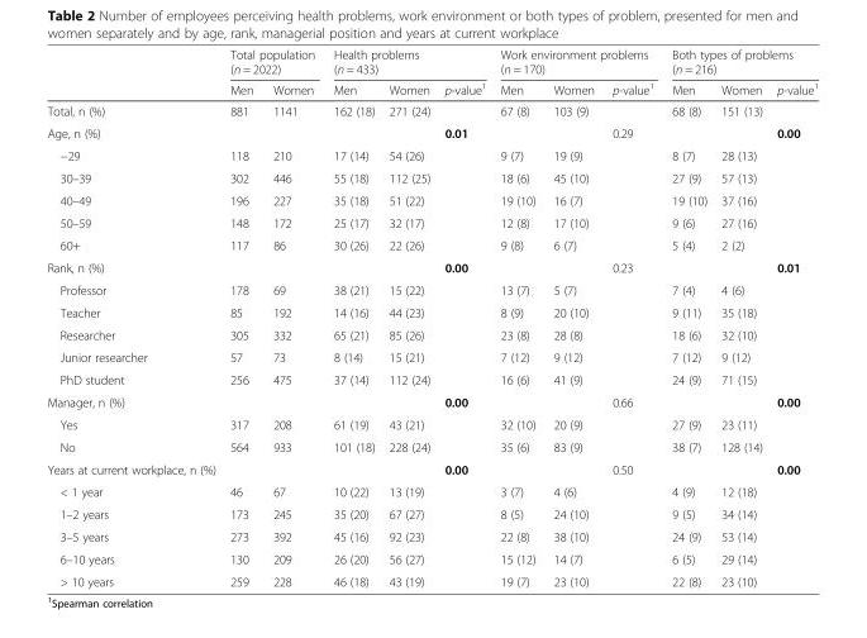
<table><thead><tr><td rowspan="2"></td><td colspan="2">Total population (n = 2022)</td><td colspan="3">Health problems (n = 433)</td><td colspan="3">Work environment problems (n = 170)</td><td colspan="3">Both types of problems (n = 216)</td></tr><tr><td>Men</td><td>Women</td><td>Men</td><td>Women</td><td>p-value<sup>1</sup></td><td>Men</td><td>Women</td><td>p-value<sup>1</sup></td><td>Men</td><td>Women</td><td>p-value<sup>1</sup></td></tr></thead><tbody><tr><td>Total, n (%)</td><td>881</td><td>1141</td><td>162 (18)</td><td>271 (24)</td><td></td><td>67 (8)</td><td>103 (9)</td><td></td><td>68 (8)</td><td>151 (13)</td><td></td></tr><tr><td>Age, n (%)</td><td></td><td></td><td></td><td></td><td>0.01</td><td></td><td></td><td>0.29</td><td></td><td></td><td>0.00</td></tr><tr><td>−29</td><td>118</td><td>210</td><td>17 (14)</td><td>54 (26)</td><td></td><td>9 (7)</td><td>19 (9)</td><td></td><td>8 (7)</td><td>28 (13)</td><td></td></tr><tr><td>30–39</td><td>302</td><td>446</td><td>55 (18)</td><td>112 (25)</td><td></td><td>18 (6)</td><td>45 (10)</td><td></td><td>27 (9)</td><td>57 (13)</td><td></td></tr><tr><td>40–49</td><td>196</td><td>227</td><td>35 (18)</td><td>51 (22)</td><td></td><td>19 (10)</td><td>16 (7)</td><td></td><td>19 (10)</td><td>37 (16)</td><td></td></tr><tr><td>50–59</td><td>148</td><td>172</td><td>25 (17)</td><td>32 (17)</td><td></td><td>12 (8)</td><td>17 (10)</td><td></td><td>9 (6)</td><td>27 (16)</td><td></td></tr><tr><td>60+</td><td>117</td><td>86</td><td>30 (26)</td><td>22 (26)</td><td></td><td>9 (8)</td><td>6 (7)</td><td></td><td>5 (4)</td><td>2 (2)</td><td></td></tr><tr><td>Rank, n (%)</td><td></td><td></td><td></td><td></td><td>0.00</td><td></td><td></td><td>0.23</td><td></td><td></td><td>0.01</td></tr><tr><td>Professor</td><td>178</td><td>69</td><td>38 (21)</td><td>15 (22)</td><td></td><td>13 (7)</td><td>5 (7)</td><td></td><td>7 (4)</td><td>4 (6)</td><td></td></tr><tr><td>Teacher</td><td>85</td><td>192</td><td>14 (16)</td><td>44 (23)</td><td></td><td>8 (9)</td><td>20 (10)</td><td></td><td>9 (11)</td><td>35 (18)</td><td></td></tr><tr><td>Researcher</td><td>305</td><td>332</td><td>65 (21)</td><td>85 (26)</td><td></td><td>23 (8)</td><td>28 (8)</td><td></td><td>18 (6)</td><td>32 (10)</td><td></td></tr><tr><td>Junior researcher</td><td>57</td><td>73</td><td>8 (14)</td><td>15 (21)</td><td></td><td>7 (12)</td><td>9 (12)</td><td></td><td>7 (12)</td><td>9 (12)</td><td></td></tr><tr><td>PhD student</td><td>256</td><td>475</td><td>37 (14)</td><td>112 (24)</td><td></td><td>16 (6)</td><td>41 (9)</td><td></td><td>24 (9)</td><td>71 (15)</td><td></td></tr><tr><td>Manager, n (%)</td><td></td><td></td><td></td><td></td><td>0.00</td><td></td><td></td><td>0.66</td><td></td><td></td><td>0.00</td></tr><tr><td>Yes</td><td>317</td><td>208</td><td>61 (19)</td><td>43 (21)</td><td></td><td>32 (10)</td><td>20 (9)</td><td></td><td>27 (9)</td><td>23 (11)</td><td></td></tr><tr><td>No</td><td>564</td><td>933</td><td>101 (18)</td><td>228 (24)</td><td></td><td>35 (6)</td><td>83 (9)</td><td></td><td>38 (7)</td><td>128 (14)</td><td></td></tr><tr><td>Years at current workplace, n (%)</td><td></td><td></td><td></td><td></td><td>0.00</td><td></td><td></td><td>0.50</td><td></td><td></td><td>0.00</td></tr><tr><td>&lt; 1 year</td><td>46</td><td>67</td><td>10 (22)</td><td>13 (19)</td><td></td><td>3 (7)</td><td>4 (6)</td><td></td><td>4 (9)</td><td>12 (18)</td><td></td></tr><tr><td>1–2 years</td><td>173</td><td>245</td><td>35 (20)</td><td>67 (27)</td><td></td><td>8 (5)</td><td>24 (10)</td><td></td><td>9 (5)</td><td>34 (14)</td><td></td></tr><tr><td>3–5 years</td><td>273</td><td>392</td><td>45 (16)</td><td>92 (23)</td><td></td><td>22 (8)</td><td>38 (10)</td><td></td><td>24 (9)</td><td>53 (14)</td><td></td></tr><tr><td>6–10 years</td><td>130</td><td>209</td><td>26 (20)</td><td>56 (27)</td><td></td><td>15 (12)</td><td>14 (7)</td><td></td><td>6 (5)</td><td>29 (14)</td><td></td></tr><tr><td>&gt; 10 years</td><td>259</td><td>228</td><td>46 (18)</td><td>43 (19)</td><td></td><td>19 (7)</td><td>23 (10)</td><td></td><td>22 (8)</td><td>23 (10)</td><td></td></tr></tbody></table>